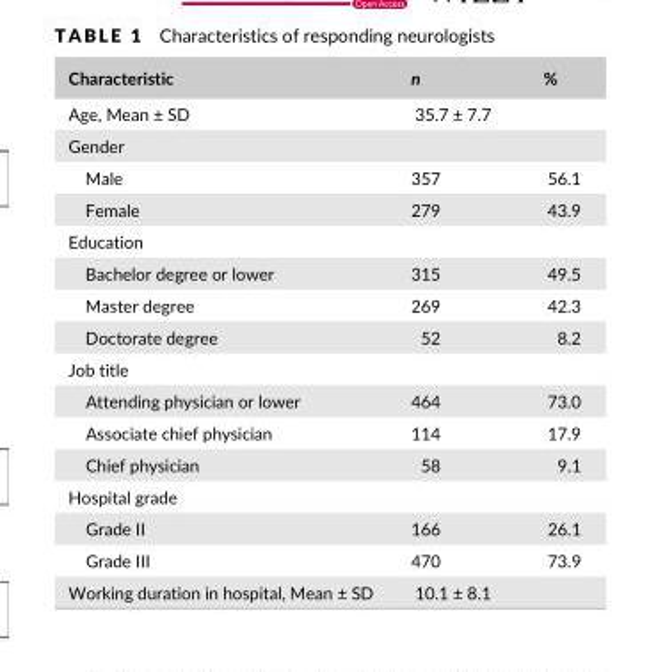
<table><thead><tr><td>Characteristic</td><td>n</td><td>%</td></tr></thead><tbody><tr><td>Age, Mean ± SD</td><td colspan="2">35.7 ± 7.7</td></tr><tr><td colspan="3">Gender</td></tr><tr><td>Male</td><td>357</td><td>56.1</td></tr><tr><td>Female</td><td>279</td><td>43.9</td></tr><tr><td colspan="3">Education</td></tr><tr><td>Bachelor degree or lower</td><td>315</td><td>49.5</td></tr><tr><td>Master degree</td><td>269</td><td>42.3</td></tr><tr><td>Doctorate degree</td><td>52</td><td>8.2</td></tr><tr><td colspan="3">Job title</td></tr><tr><td>Attending physician or lower</td><td>464</td><td>73.0</td></tr><tr><td>Associate chief physician</td><td>114</td><td>17.9</td></tr><tr><td>Chief physician</td><td>58</td><td>9.1</td></tr><tr><td colspan="3">Hospital grade</td></tr><tr><td>Grade II</td><td>166</td><td>26.1</td></tr><tr><td>Grade III</td><td>470</td><td>73.9</td></tr><tr><td>Working duration in hospital, Mean ± SD</td><td colspan="2">10.1 ± 8.1</td></tr></tbody></table>